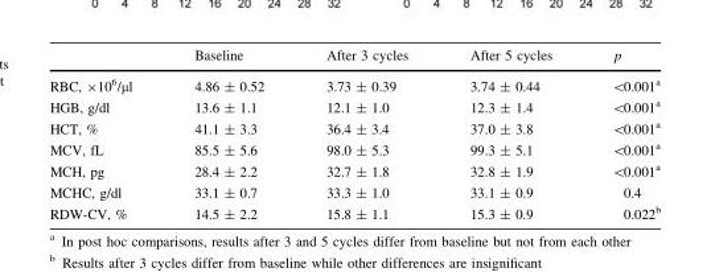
<table><thead><tr><td></td><td>Baseline</td><td>After 3 cycles</td><td>After 5 cycles</td><td>p</td></tr></thead><tbody><tr><td>RBC, ×10<sup>6</sup>/µl</td><td>4.86 ± 0.52</td><td>3.73 ± 0.39</td><td>3.74 ± 0.44</td><td>&lt;0.001<sup>a</sup></td></tr><tr><td>HGB, g/dl</td><td>13.6 ± 1.1</td><td>12.1 ± 1.0</td><td>12.3 ± 1.4</td><td>&lt;0.001<sup>a</sup></td></tr><tr><td>HCT, %</td><td>41.1 ± 3.3</td><td>36.4 ± 3.4</td><td>37.0 ± 3.8</td><td>&lt;0.001<sup>a</sup></td></tr><tr><td>MCV, fL</td><td>85.5 ± 5.6</td><td>98.0 ± 5.3</td><td>99.3 ± 5.1</td><td>&lt;0.001<sup>a</sup></td></tr><tr><td>MCH, pg</td><td>28.4 ± 2.2</td><td>32.7 ± 1.8</td><td>32.8 ± 1.9</td><td>&lt;0.001<sup>a</sup></td></tr><tr><td>MCHC, g/dl</td><td>33.1 ± 0.7</td><td>33.3 ± 1.0</td><td>33.1 ± 0.9</td><td>0.4</td></tr><tr><td>RDW-CV, %</td><td>14.5 ± 2.2</td><td>15.8 ± 1.1</td><td>15.3 ± 0.9</td><td>0.022<sup>b</sup></td></tr></tbody></table>